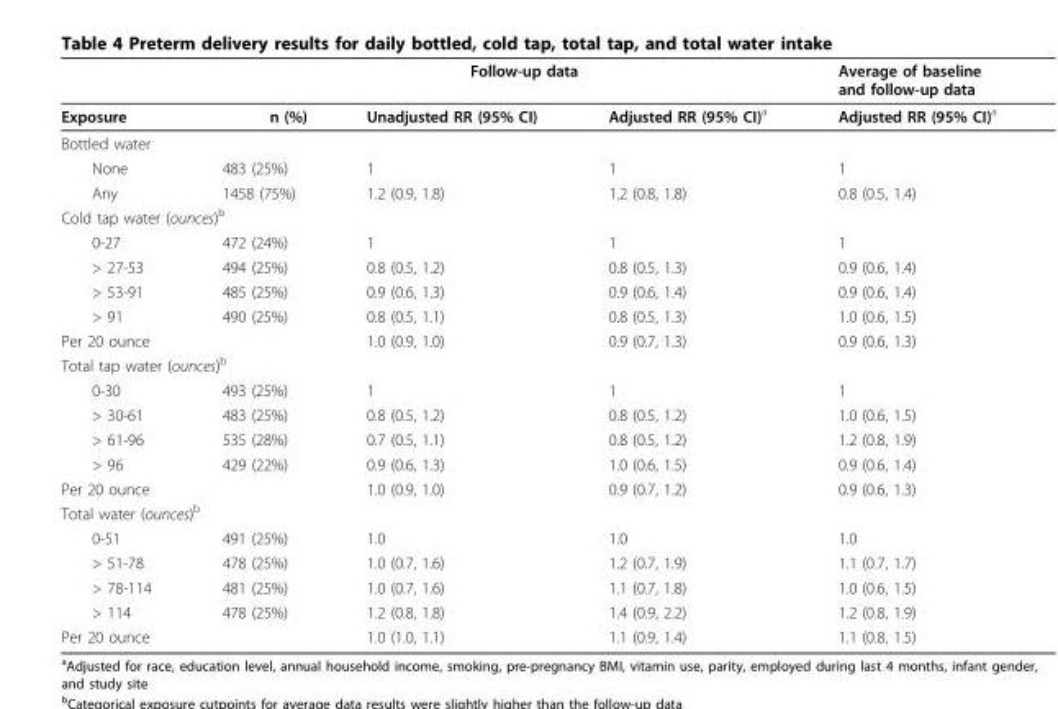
<table><thead><tr><td rowspan="2">Exposure</td><td colspan="3">Follow-up data</td><td rowspan="2">Average of baseline and follow-up data Adjusted RR (95% CI)a</td></tr><tr><td>n (%)</td><td>Unadjusted RR (95% CI)</td><td>Adjusted RR (95% CI)a</td></tr></thead><tbody><tr><td colspan="5">Bottled water</td></tr><tr><td>None</td><td>483 (25%)</td><td>1</td><td>1</td><td>1</td></tr><tr><td>Any</td><td>1458 (75%)</td><td>1.2 (0.9, 1.8)</td><td>1.2 (0.8, 1.8)</td><td>0.8 (0.5, 1.4)</td></tr><tr><td colspan="5">Cold tap water (ounces)<sup>b</sup></td></tr><tr><td>0-27</td><td>472 (24%)</td><td>1</td><td>1</td><td>1</td></tr><tr><td>&gt; 27-53</td><td>494 (25%)</td><td>0.8 (0.5, 1.2)</td><td>0.8 (0.5, 1.3)</td><td>0.9 (0.6, 1.4)</td></tr><tr><td>&gt; 53-91</td><td>485 (25%)</td><td>0.9 (0.6, 1.3)</td><td>0.9 (0.6, 1.4)</td><td>0.9 (0.6, 1.4)</td></tr><tr><td>&gt; 91</td><td>490 (25%)</td><td>0.8 (0.5, 1.1)</td><td>0.8 (0.5, 1.3)</td><td>1.0 (0.6, 1.5)</td></tr><tr><td colspan="2">Per 20 ounce</td><td>1.0 (0.9, 1.0)</td><td>0.9 (0.7, 1.3)</td><td>0.9 (0.6, 1.3)</td></tr><tr><td colspan="5">Total tap water (ounces)<sup>b</sup></td></tr><tr><td>0-30</td><td>493 (25%)</td><td>1</td><td>1</td><td>1</td></tr><tr><td>&gt; 30-61</td><td>483 (25%)</td><td>0.8 (0.5, 1.2)</td><td>0.8 (0.5, 1.2)</td><td>1.0 (0.6, 1.5)</td></tr><tr><td>&gt; 61-96</td><td>535 (28%)</td><td>0.7 (0.5, 1.1)</td><td>0.8 (0.5, 1.2)</td><td>1.2 (0.8, 1.9)</td></tr><tr><td>&gt; 96</td><td>429 (22%)</td><td>0.9 (0.6, 1.3)</td><td>1.0 (0.6, 1.5)</td><td>0.9 (0.6, 1.4)</td></tr><tr><td colspan="2">Per 20 ounce</td><td>1.0 (0.9, 1.0)</td><td>0.9 (0.7, 1.2)</td><td>0.9 (0.6, 1.3)</td></tr><tr><td colspan="5">Total water (ounces)<sup>b</sup></td></tr><tr><td>0-51</td><td>491 (25%)</td><td>1.0</td><td>1.0</td><td>1.0</td></tr><tr><td>&gt; 51-78</td><td>478 (25%)</td><td>1.0 (0.7, 1.6)</td><td>1.2 (0.7, 1.9)</td><td>1.1 (0.7, 1.7)</td></tr><tr><td>&gt; 78-114</td><td>481 (25%)</td><td>1.0 (0.7, 1.6)</td><td>1.1 (0.7, 1.8)</td><td>1.0 (0.6, 1.5)</td></tr><tr><td>&gt; 114</td><td>478 (25%)</td><td>1.2 (0.8, 1.8)</td><td>1.4 (0.9, 2.2)</td><td>1.2 (0.8, 1.9)</td></tr><tr><td colspan="2">Per 20 ounce</td><td>1.0 (1.0, 1.1)</td><td>1.1 (0.9, 1.4)</td><td>1.1 (0.8, 1.5)</td></tr></tbody></table>